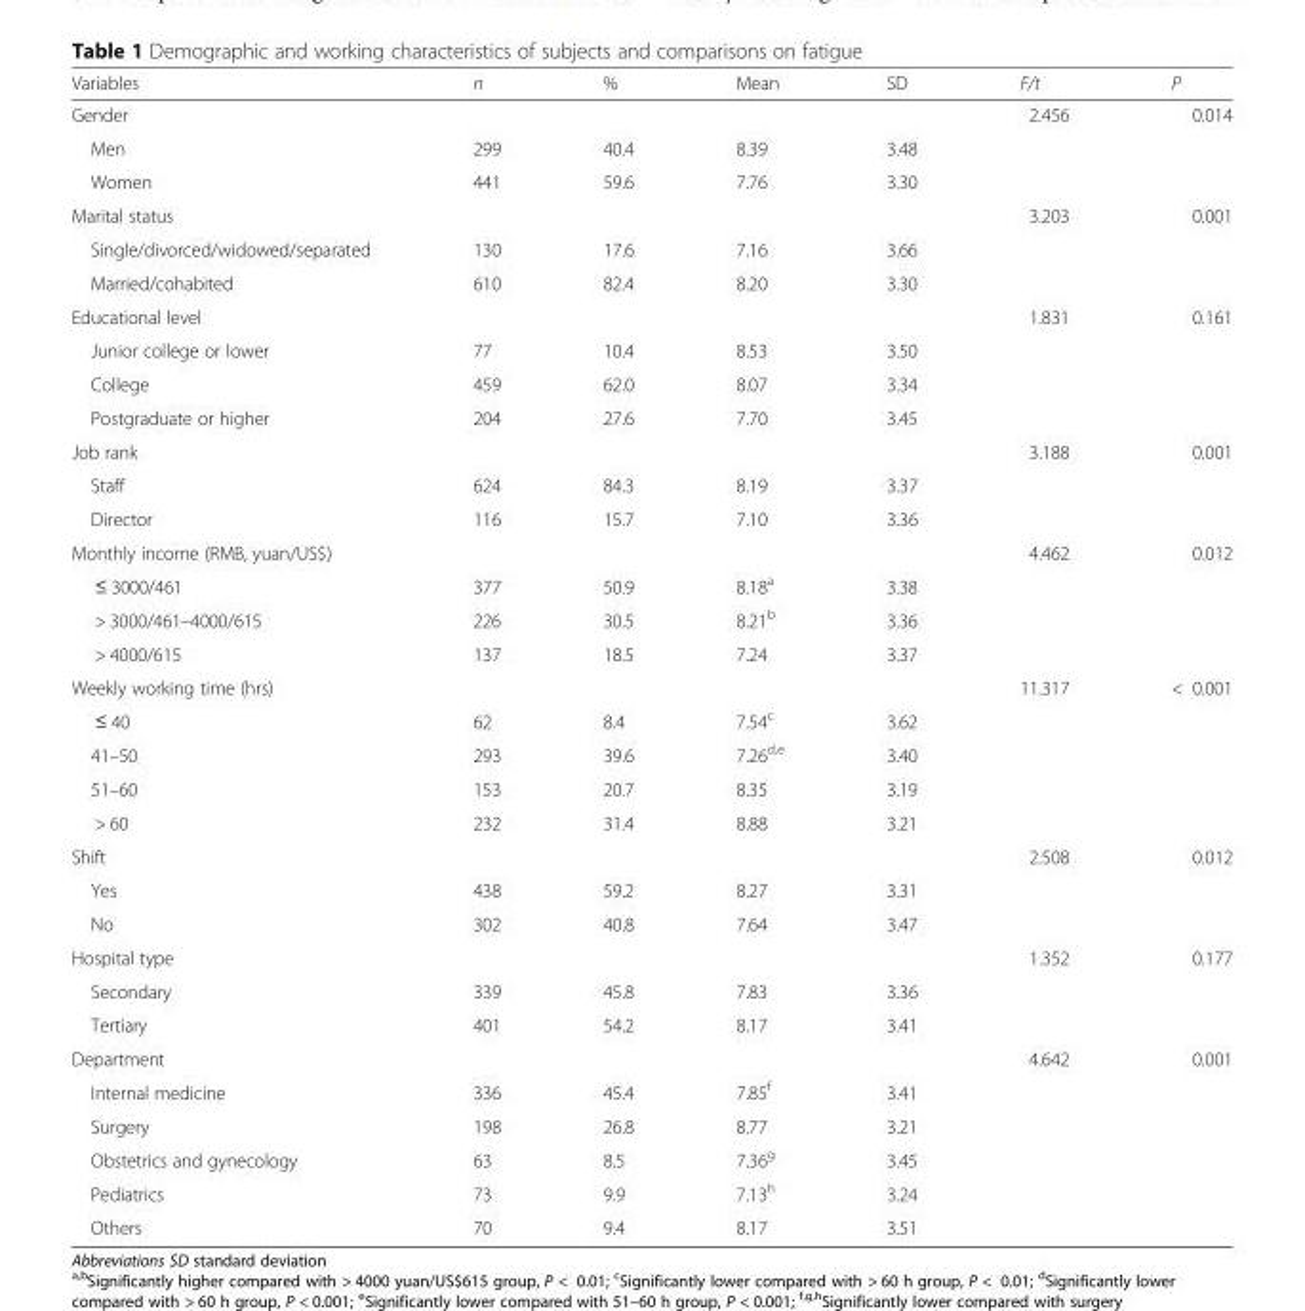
<table><thead><tr><td>Variables</td><td>n</td><td>%</td><td>Mean</td><td>SD</td><td>F/t</td><td>P</td></tr></thead><tbody><tr><td>Gender</td><td></td><td></td><td></td><td></td><td>2.456</td><td>0.014</td></tr><tr><td>Men</td><td>299</td><td>40.4</td><td>8.39</td><td>3.48</td><td></td><td></td></tr><tr><td>Women</td><td>441</td><td>59.6</td><td>7.76</td><td>3.30</td><td></td><td></td></tr><tr><td>Marital status</td><td></td><td></td><td></td><td></td><td>3.203</td><td>0.001</td></tr><tr><td>Single/divorced/widowed/separated</td><td>130</td><td>17.6</td><td>7.16</td><td>3.66</td><td></td><td></td></tr><tr><td>Married/cohabited</td><td>610</td><td>82.4</td><td>8.20</td><td>3.30</td><td></td><td></td></tr><tr><td>Educational level</td><td></td><td></td><td></td><td></td><td>1.831</td><td>0.161</td></tr><tr><td>Junior college or lower</td><td>77</td><td>10.4</td><td>8.53</td><td>3.50</td><td></td><td></td></tr><tr><td>College</td><td>459</td><td>62.0</td><td>8.07</td><td>3.34</td><td></td><td></td></tr><tr><td>Postgraduate or higher</td><td>204</td><td>27.6</td><td>7.70</td><td>3.45</td><td></td><td></td></tr><tr><td>Job rank</td><td></td><td></td><td></td><td></td><td>3.188</td><td>0.001</td></tr><tr><td>Staff</td><td>624</td><td>84.3</td><td>8.19</td><td>3.37</td><td></td><td></td></tr><tr><td>Director</td><td>116</td><td>15.7</td><td>7.10</td><td>3.36</td><td></td><td></td></tr><tr><td>Monthly income (RMB, yuan/US$)</td><td></td><td></td><td></td><td></td><td>4.462</td><td>0.012</td></tr><tr><td>≤ 3000/461</td><td>377</td><td>50.9</td><td>8.18<sup>a</sup></td><td>3.38</td><td></td><td></td></tr><tr><td>&gt; 3000/461–4000/615</td><td>226</td><td>30.5</td><td>8.21<sup>b</sup></td><td>3.36</td><td></td><td></td></tr><tr><td>&gt; 4000/615</td><td>137</td><td>18.5</td><td>7.24</td><td>3.37</td><td></td><td></td></tr><tr><td>Weekly working time (hrs)</td><td></td><td></td><td></td><td></td><td>11.317</td><td>&lt; 0.001</td></tr><tr><td>≤ 40</td><td>62</td><td>8.4</td><td>7.54<sup>c</sup></td><td>3.62</td><td></td><td></td></tr><tr><td>41–50</td><td>293</td><td>39.6</td><td>7.26<sup>d,e</sup></td><td>3.40</td><td></td><td></td></tr><tr><td>51–60</td><td>153</td><td>20.7</td><td>8.35</td><td>3.19</td><td></td><td></td></tr><tr><td>&gt; 60</td><td>232</td><td>31.4</td><td>8.88</td><td>3.21</td><td></td><td></td></tr><tr><td>Shift</td><td></td><td></td><td></td><td></td><td>2.508</td><td>0.012</td></tr><tr><td>Yes</td><td>438</td><td>59.2</td><td>8.27</td><td>3.31</td><td></td><td></td></tr><tr><td>No</td><td>302</td><td>40.8</td><td>7.64</td><td>3.47</td><td></td><td></td></tr><tr><td>Hospital type</td><td></td><td></td><td></td><td></td><td>1.352</td><td>0.177</td></tr><tr><td>Secondary</td><td>339</td><td>45.8</td><td>7.83</td><td>3.36</td><td></td><td></td></tr><tr><td>Tertiary</td><td>401</td><td>54.2</td><td>8.17</td><td>3.41</td><td></td><td></td></tr><tr><td>Department</td><td></td><td></td><td></td><td></td><td>4.642</td><td>0.001</td></tr><tr><td>Internal medicine</td><td>336</td><td>45.4</td><td>7.85<sup>f</sup></td><td>3.41</td><td></td><td></td></tr><tr><td>Surgery</td><td>198</td><td>26.8</td><td>8.77</td><td>3.21</td><td></td><td></td></tr><tr><td>Obstetrics and gynecology</td><td>63</td><td>8.5</td><td>7.36<sup>g</sup></td><td>3.45</td><td></td><td></td></tr><tr><td>Pediatrics</td><td>73</td><td>9.9</td><td>7.13<sup>h</sup></td><td>3.24</td><td></td><td></td></tr><tr><td>Others</td><td>70</td><td>9.4</td><td>8.17</td><td>3.51</td><td></td><td></td></tr></tbody></table>